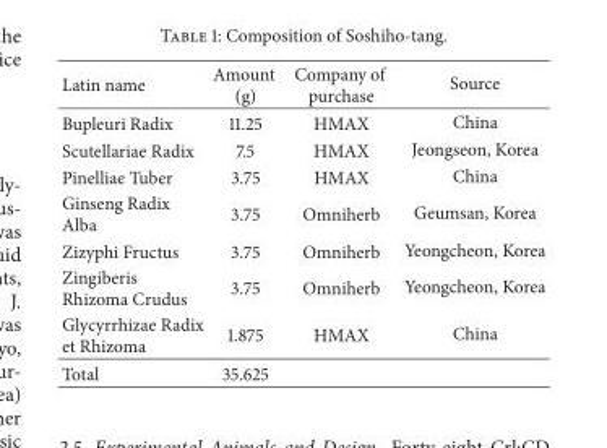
<table><thead><tr><td>Latin name</td><td>Amount (g)</td><td>Company of purchase</td><td>Source</td></tr></thead><tbody><tr><td>Bupleuri Radix</td><td>11.25</td><td>HMAX</td><td>China</td></tr><tr><td>Scutellariae Radix</td><td>7.5</td><td>HMAX</td><td>Jeongseon, Korea</td></tr><tr><td>Pinelliae Tuber</td><td>3.75</td><td>HMAX</td><td>China</td></tr><tr><td>Ginseng Radix Alba</td><td>3.75</td><td>Omniherb</td><td>Geumsan, Korea</td></tr><tr><td>Zizyphi Fructus</td><td>3.75</td><td>Omniherb</td><td>Yeongcheon, Korea</td></tr><tr><td>Zingiberis Rhizoma Crudus</td><td>3.75</td><td>Omniherb</td><td>Yeongcheon, Korea</td></tr><tr><td>Glycyrrhizae Radix et Rhizoma</td><td>1.875</td><td>HMAX</td><td>China</td></tr><tr><td>Total</td><td>35.625</td><td></td><td></td></tr></tbody></table>